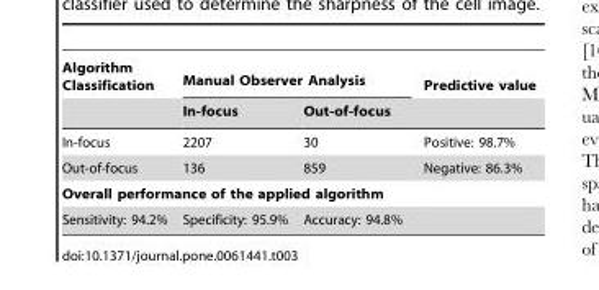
<table><thead><tr><td rowspan="2">Algorithm Classification</td><td colspan="2">Manual Observer Analysis</td><td rowspan="2">Predictive value</td></tr><tr><td>In-focus</td><td>Out-of-focus</td></tr></thead><tbody><tr><td>In-focus</td><td>2207</td><td>30</td><td>Positive: 98.7%</td></tr><tr><td>Out-of-focus</td><td>136</td><td>859</td><td>Negative: 86.3%</td></tr><tr><td colspan="4">Overall performance of the applied algorithm</td></tr><tr><td>Sensitivity: 94.2%</td><td>Specificity: 95.9%</td><td>Accuracy: 94.8%</td><td></td></tr></tbody></table>